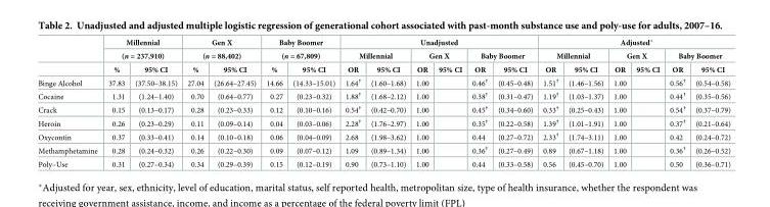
<table><thead><tr><td rowspan="3"></td><td rowspan="2" colspan="2">Millennial (n = 237,910)</td><td rowspan="2" colspan="2">Gen X (n = 88,402)</td><td rowspan="2" colspan="2">Baby Boomer (n = 67,809)</td><td colspan="6">Unadjusted</td><td colspan="6">Adjusted*</td></tr><tr><td colspan="2">Millennial</td><td colspan="2">Gen X</td><td colspan="2">Baby Boomer</td><td colspan="2">Millennial</td><td colspan="2">Gen X</td><td colspan="2">Baby Boomer</td></tr><tr><td>%</td><td>95% CI</td><td>%</td><td>95% CI</td><td>%</td><td>95% CI</td><td>OR</td><td>95% CI</td><td>OR</td><td>95% CI</td><td>OR</td><td>95% CI</td><td>OR</td><td>95% CI</td><td>OR</td><td>95% CI</td><td>OR</td><td>95% CI</td></tr></thead><tbody><tr><td>Binge Alcohol</td><td>37.83</td><td>(37.50–38.15)</td><td>27.04</td><td>(26.64–27.45)</td><td>14.66</td><td>(14.33–15.01)</td><td>1.64<sup>†</sup></td><td>(1.60–1.68)</td><td>1.00</td><td></td><td>0.46<sup>†</sup></td><td>(0.45–0.48)</td><td>1.51<sup>†</sup></td><td>(1.46–1.56)</td><td>1.00</td><td></td><td>0.56<sup>†</sup></td><td>(0.54–0.58)</td></tr><tr><td>Cocaine</td><td>1.31</td><td>(1.24–1.40)</td><td>0.70</td><td>(0.64–0.77)</td><td>0.27</td><td>(0.23–0.32)</td><td>1.88<sup>†</sup></td><td>(1.68–2.12)</td><td>1.00</td><td></td><td>0.38<sup>†</sup></td><td>(0.31–0.47)</td><td>1.19<sup>†</sup></td><td>(1.03–1.37)</td><td>1.00</td><td></td><td>0.44<sup>†</sup></td><td>(0.35–0.56)</td></tr><tr><td>Crack</td><td>0.15</td><td>(0.13–0.17)</td><td>0.28</td><td>(0.23–0.33)</td><td>0.12</td><td>(0.10–0.16)</td><td>0.54<sup>†</sup></td><td>(0.42–0.70)</td><td>1.00</td><td></td><td>0.45<sup>†</sup></td><td>(0.34–0.60)</td><td>0.33<sup>†</sup></td><td>(0.25–0.43)</td><td>1.00</td><td></td><td>0.54<sup>†</sup></td><td>(0.37–0.79)</td></tr><tr><td>Heroin</td><td>0.26</td><td>(0.23–0.29)</td><td>0.11</td><td>(0.09–0.14)</td><td>0.04</td><td>(0.03–0.06)</td><td>2.28<sup>†</sup></td><td>(1.76–2.97)</td><td>1.00</td><td></td><td>0.35<sup>†</sup></td><td>(0.22–0.58)</td><td>1.39<sup>†</sup></td><td>(1.01–1.91)</td><td>1.00</td><td></td><td>0.37<sup>†</sup></td><td>(0.21–0.64)</td></tr><tr><td>Oxycontin</td><td>0.37</td><td>(0.33–0.41)</td><td>0.14</td><td>(0.10–0.18)</td><td>0.06</td><td>(0.04–0.09)</td><td>2.68</td><td>(1.98–3.62)</td><td>1.00</td><td></td><td>0.44</td><td>(0.27–0.72)</td><td>2.33<sup>†</sup></td><td>(1.74–3.11)</td><td>1.00</td><td></td><td>0.42</td><td>(0.24–0.72)</td></tr><tr><td>Methamphetamine</td><td>0.28</td><td>(0.24–0.32)</td><td>0.26</td><td>(0.22–0.30)</td><td>0.09</td><td>(0.07–0.12)</td><td>1.09</td><td>(0.89–1.34)</td><td>1.00</td><td></td><td>0.36<sup>†</sup></td><td>(0.27–0.49)</td><td>0.89</td><td>(0.67–1.18)</td><td>1.00</td><td></td><td>0.36<sup>†</sup></td><td>(0.26–0.52)</td></tr><tr><td>Poly–Use</td><td>0.31</td><td>(0.27–0.34)</td><td>0.34</td><td>(0.29–0.39)</td><td>0.15</td><td>(0.12–0.19)</td><td>0.90</td><td>(0.73–1.10)</td><td>1.00</td><td></td><td>0.44</td><td>(0.33–0.58)</td><td>0.56</td><td>(0.45–0.70)</td><td>1.00</td><td></td><td>0.50</td><td>(0.36–0.71)</td></tr></tbody></table>